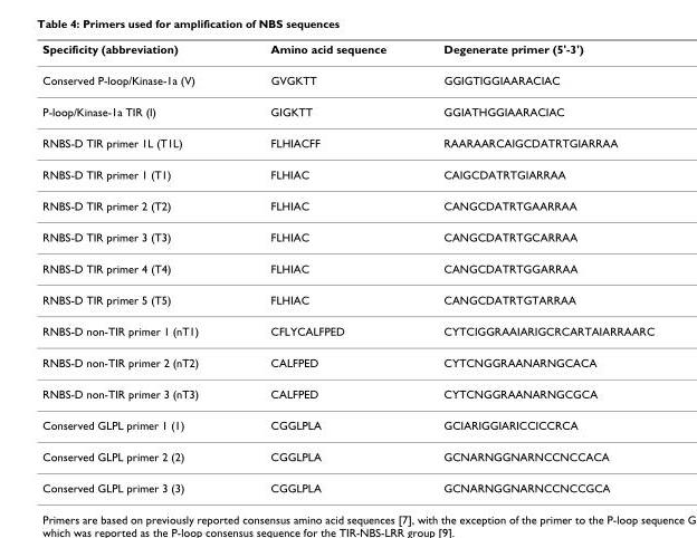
<table><thead><tr><td>Specificity (abbreviation)</td><td>Amino acid sequence</td><td>Degenerate primer (5&#x27;-3&#x27;)</td></tr></thead><tbody><tr><td>Conserved P-loop/Kinase-1a (V)</td><td>GVGKTT</td><td>GGIGTIGGIAARACIAC</td></tr><tr><td>P-loop/Kinase-1a TIR (I)</td><td>GIGKTT</td><td>GGIATHGGIAARACIAC</td></tr><tr><td>RNBS-D TIR primer 1L (T1L)</td><td>FLHIACFF</td><td>RAARAARCAIGCDATRTGIARRAA</td></tr><tr><td>RNBS-D TIR primer 1 (T1)</td><td>FLHIAC</td><td>CAIGCDATRTGIARRAA</td></tr><tr><td>RNBS-D TIR primer 2 (T2)</td><td>FLHIAC</td><td>CANGCDATRTGAARRAA</td></tr><tr><td>RNBS-D TIR primer 3 (T3)</td><td>FLHIAC</td><td>CANGCDATRTGCARRAA</td></tr><tr><td>RNBS-D TIR primer 4 (T4)</td><td>FLHIAC</td><td>CANGCDATRTGGARRAA</td></tr><tr><td>RNBS-D TIR primer 5 (T5)</td><td>FLHIAC</td><td>CANGCDATRTGTARRAA</td></tr><tr><td>RNBS-D non-TIR primer 1 (nT1)</td><td>CFLYCALFPED</td><td>CYTCIGGRAAIARIGCRCARTAIARRAARC</td></tr><tr><td>RNBS-D non-TIR primer 2 (nT2)</td><td>CALFPED</td><td>CYTCNGGRAANARNGCACA</td></tr><tr><td>RNBS-D non-TIR primer 3 (nT3)</td><td>CALFPED</td><td>CYTCNGGRAANARNGCGCA</td></tr><tr><td>Conserved GLPL primer 1 (1)</td><td>CGGLPLA</td><td>GCIARIGGIARICCICCRCA</td></tr><tr><td>Conserved GLPL primer 2 (2)</td><td>CGGLPLA</td><td>GCNARNGGNARNCCNCCACA</td></tr><tr><td>Conserved GLPL primer 3 (3)</td><td>CGGLPLA</td><td>GCNARNGGNARNCCNCCGCA</td></tr></tbody></table>